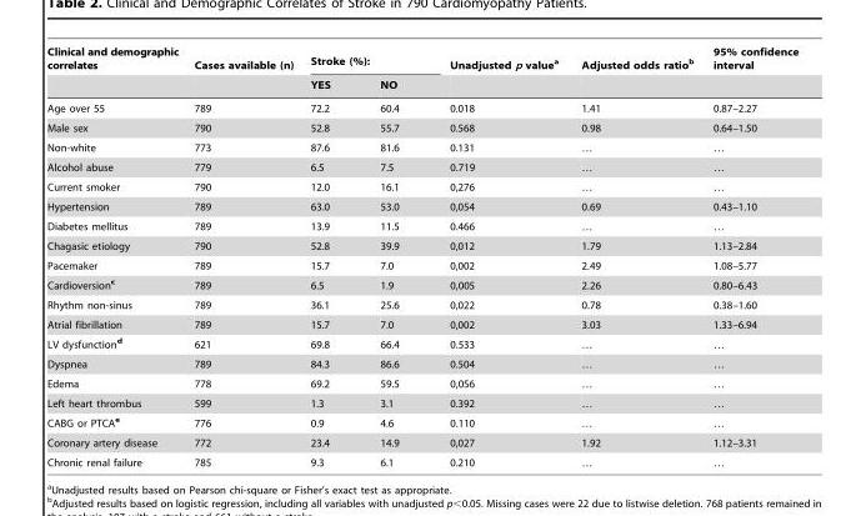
<table><thead><tr><td rowspan="2">Clinical and demographic correlates</td><td rowspan="2">Cases available (n)</td><td colspan="2">Stroke (%):</td><td rowspan="2">Unadjusted p value<sup>a</sup></td><td rowspan="2">Adjusted odds ratio<sup>b</sup></td><td rowspan="2">95% confidence interval</td></tr><tr><td>YES</td><td>NO</td></tr></thead><tbody><tr><td>Age over 55</td><td>789</td><td>72.2</td><td>60.4</td><td>0.018</td><td>1.41</td><td>0.87–2.27</td></tr><tr><td>Male sex</td><td>790</td><td>52.8</td><td>55.7</td><td>0.568</td><td>0.98</td><td>0.64–1.50</td></tr><tr><td>Non-white</td><td>773</td><td>87.6</td><td>81.6</td><td>0.131</td><td>…</td><td>…</td></tr><tr><td>Alcohol abuse</td><td>779</td><td>6.5</td><td>7.5</td><td>0.719</td><td>…</td><td>…</td></tr><tr><td>Current smoker</td><td>790</td><td>12.0</td><td>16.1</td><td>0,276</td><td>…</td><td>…</td></tr><tr><td>Hypertension</td><td>789</td><td>63.0</td><td>53.0</td><td>0,054</td><td>0.69</td><td>0.43–1.10</td></tr><tr><td>Diabetes mellitus</td><td>789</td><td>13.9</td><td>11.5</td><td>0.466</td><td>…</td><td>…</td></tr><tr><td>Chagasic etiology</td><td>790</td><td>52.8</td><td>39.9</td><td>0,012</td><td>1.79</td><td>1.13–2.84</td></tr><tr><td>Pacemaker</td><td>789</td><td>15.7</td><td>7.0</td><td>0,002</td><td>2.49</td><td>1.08–5.77</td></tr><tr><td>Cardioversion<sup>c</sup></td><td>789</td><td>6.5</td><td>1.9</td><td>0,005</td><td>2.26</td><td>0.80–6.43</td></tr><tr><td>Rhythm non-sinus</td><td>789</td><td>36.1</td><td>25.6</td><td>0,022</td><td>0.78</td><td>0.38–1.60</td></tr><tr><td>Atrial fibrillation</td><td>789</td><td>15.7</td><td>7.0</td><td>0,002</td><td>3.03</td><td>1.33–6.94</td></tr><tr><td>LV dysfunction<sup>d</sup></td><td>621</td><td>69.8</td><td>66.4</td><td>0.533</td><td>…</td><td>…</td></tr><tr><td>Dyspnea</td><td>789</td><td>84.3</td><td>86.6</td><td>0.504</td><td>…</td><td>…</td></tr><tr><td>Edema</td><td>778</td><td>69.2</td><td>59.5</td><td>0,056</td><td>…</td><td>…</td></tr><tr><td>Left heart thrombus</td><td>599</td><td>1.3</td><td>3.1</td><td>0.392</td><td>…</td><td>…</td></tr><tr><td>CABG or PTCA<sup>e</sup></td><td>776</td><td>0.9</td><td>4.6</td><td>0.110</td><td>…</td><td>…</td></tr><tr><td>Coronary artery disease</td><td>772</td><td>23.4</td><td>14.9</td><td>0,027</td><td>1.92</td><td>1.12–3.31</td></tr><tr><td>Chronic renal failure</td><td>785</td><td>9.3</td><td>6.1</td><td>0.210</td><td>…</td><td>…</td></tr></tbody></table>